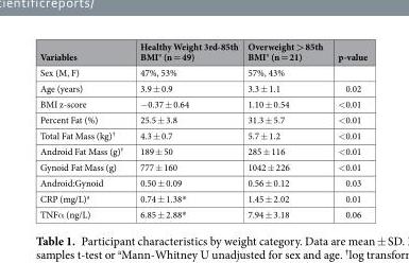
<table><thead><tr><td>Variables</td><td>Healthy Weight 3rd-85th BMI° (n = 49)</td><td>Overweight &gt; 85th BMI° (n = 21)</td><td>p-value</td></tr></thead><tbody><tr><td>Sex (M, F)</td><td>47%, 53%</td><td>57%, 43%</td><td></td></tr><tr><td>Age (years)</td><td>3.9 ± 0.9</td><td>3.3 ± 1.1</td><td>0.02</td></tr><tr><td>BMI z-score</td><td>−0.37 ± 0.64</td><td>1.10 ± 0.54</td><td>&lt;0.01</td></tr><tr><td>Percent Fat (%)</td><td>25.5 ± 3.8</td><td>31.3 ± 5.7</td><td>&lt;0.01</td></tr><tr><td>Total Fat Mass (kg)<sup>†</sup></td><td>4.3 ± 0.7</td><td>5.7 ± 1.2</td><td>&lt;0.01</td></tr><tr><td>Android Fat Mass (g)<sup>†</sup></td><td>189 ± 50</td><td>285 ± 116</td><td>&lt;0.01</td></tr><tr><td>Gynoid Fat Mass (g)</td><td>777 ± 160</td><td>1042 ± 226</td><td>&lt;0.01</td></tr><tr><td>Android:Gynoid</td><td>0.50 ± 0.09</td><td>0.56 ± 0.12</td><td>0.03</td></tr><tr><td>CRP (mg/L)<sup>a</sup></td><td>0.74 ± 1.38*</td><td>1.45 ± 2.02</td><td>0.01</td></tr><tr><td>TNFα (ng/L)</td><td>6.85 ± 2.88*</td><td>7.94 ± 3.18</td><td>0.06</td></tr></tbody></table>